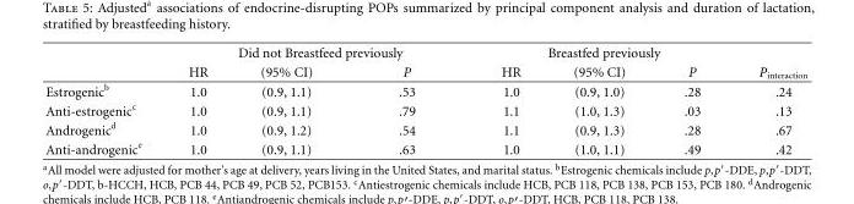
<table><thead><tr><td rowspan="2"></td><td colspan="3">Did not Breastfeed previously</td><td colspan="3">Breastfed previously</td><td rowspan="2">P<sub>interaction</sub></td></tr><tr><td>HR</td><td>(95% CI)</td><td>P</td><td>HR</td><td>(95% CI)</td><td>P</td></tr></thead><tbody><tr><td>Estrogenic<sup>b</sup></td><td>1.0</td><td>(0.9, 1.1)</td><td>.53</td><td>1.0</td><td>(0.9, 1.0)</td><td>.28</td><td>.24</td></tr><tr><td>Anti-estrogenic<sup>c</sup></td><td>1.0</td><td>(0.9, 1.1)</td><td>.79</td><td>1.1</td><td>(1.0, 1.3)</td><td>.03</td><td>.13</td></tr><tr><td>Androgenic<sup>d</sup></td><td>1.0</td><td>(0.9, 1.2)</td><td>.54</td><td>1.1</td><td>(0.9, 1.3)</td><td>.28</td><td>.67</td></tr><tr><td>Anti-androgenic<sup>e</sup></td><td>1.0</td><td>(0.9, 1.1)</td><td>.63</td><td>1.0</td><td>(1.0, 1.1)</td><td>.49</td><td>.42</td></tr></tbody></table>